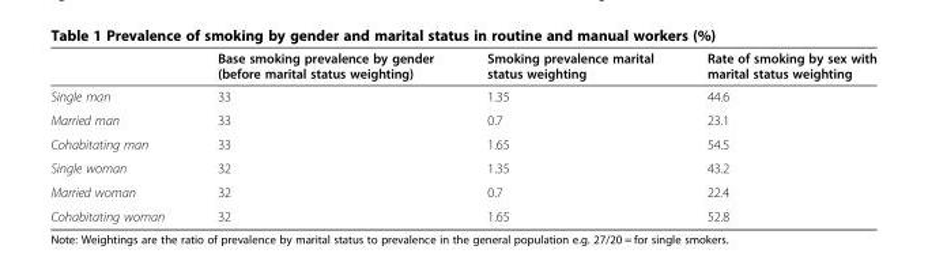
<table><thead><tr><td></td><td>Base smoking prevalence by gender (before marital status weighting)</td><td>Smoking prevalence marital status weighting</td><td>Rate of smoking by sex with marital status weighting</td></tr></thead><tbody><tr><td>Single man</td><td>33</td><td>1.35</td><td>44.6</td></tr><tr><td>Married man</td><td>33</td><td>0.7</td><td>23.1</td></tr><tr><td>Cohabitating man</td><td>33</td><td>1.65</td><td>54.5</td></tr><tr><td>Single woman</td><td>32</td><td>1.35</td><td>43.2</td></tr><tr><td>Married woman</td><td>32</td><td>0.7</td><td>22.4</td></tr><tr><td>Cohabitating woman</td><td>32</td><td>1.65</td><td>52.8</td></tr></tbody></table>